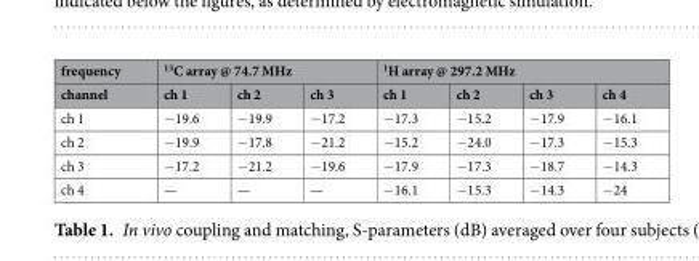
<table><thead><tr><td rowspan="2">frequency channel</td><td colspan="3"><sup>13</sup>C array @ 74.7 MHz</td><td colspan="4"><sup>1</sup>H array @ 297.2 MHz</td></tr><tr><td>ch 1</td><td>ch 2</td><td>ch 3</td><td>ch 1</td><td>ch 2</td><td>ch 3</td><td>ch 4</td></tr></thead><tbody><tr><td>ch 1</td><td>−19.6</td><td>−19.9</td><td>−17.2</td><td>−17.3</td><td>−15.2</td><td>−17.9</td><td>−16.1</td></tr><tr><td>ch 2</td><td>−19.9</td><td>−17.8</td><td>−21.2</td><td>−15.2</td><td>−24.0</td><td>−17.3</td><td>−15.3</td></tr><tr><td>ch 3</td><td>−17.2</td><td>−21.2</td><td>−19.6</td><td>−17.9</td><td>−17.3</td><td>−18.7</td><td>−14.3</td></tr><tr><td>ch 4</td><td>—</td><td>—</td><td>—</td><td>−16.1</td><td>−15.3</td><td>−14.3</td><td>−24</td></tr></tbody></table>